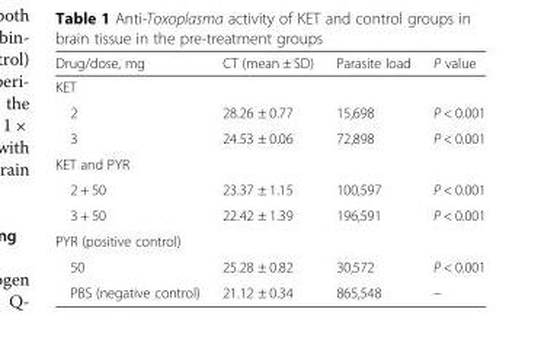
<table><thead><tr><td>Drug/dose, mg</td><td>CT (mean ± SD)</td><td>Parasite load</td><td>P value</td></tr></thead><tbody><tr><td colspan="4">KET</td></tr><tr><td>2</td><td>28.26 ± 0.77</td><td>15,698</td><td>P &lt; 0.001</td></tr><tr><td>3</td><td>24.53 ± 0.06</td><td>72,898</td><td>P &lt; 0.001</td></tr><tr><td colspan="4">KET and PYR</td></tr><tr><td>2 + 50</td><td>23.37 ± 1.15</td><td>100,597</td><td>P &lt; 0.001</td></tr><tr><td>3 + 50</td><td>22.42 ± 1.39</td><td>196,591</td><td>P &lt; 0.001</td></tr><tr><td colspan="4">PYR (positive control)</td></tr><tr><td>50</td><td>25.28 ± 0.82</td><td>30,572</td><td>P &lt; 0.001</td></tr><tr><td>PBS (negative control)</td><td>21.12 ± 0.34</td><td>865,548</td><td>–</td></tr></tbody></table>